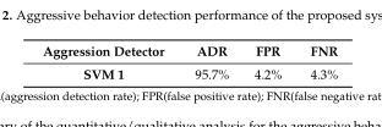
<table><thead><tr><td>Aggression Detector</td><td>ADR</td><td>FPR</td><td>FNR</td></tr></thead><tbody><tr><td>SVM 1</td><td>95.7%</td><td>4.2%</td><td>4.3%</td></tr></tbody></table>